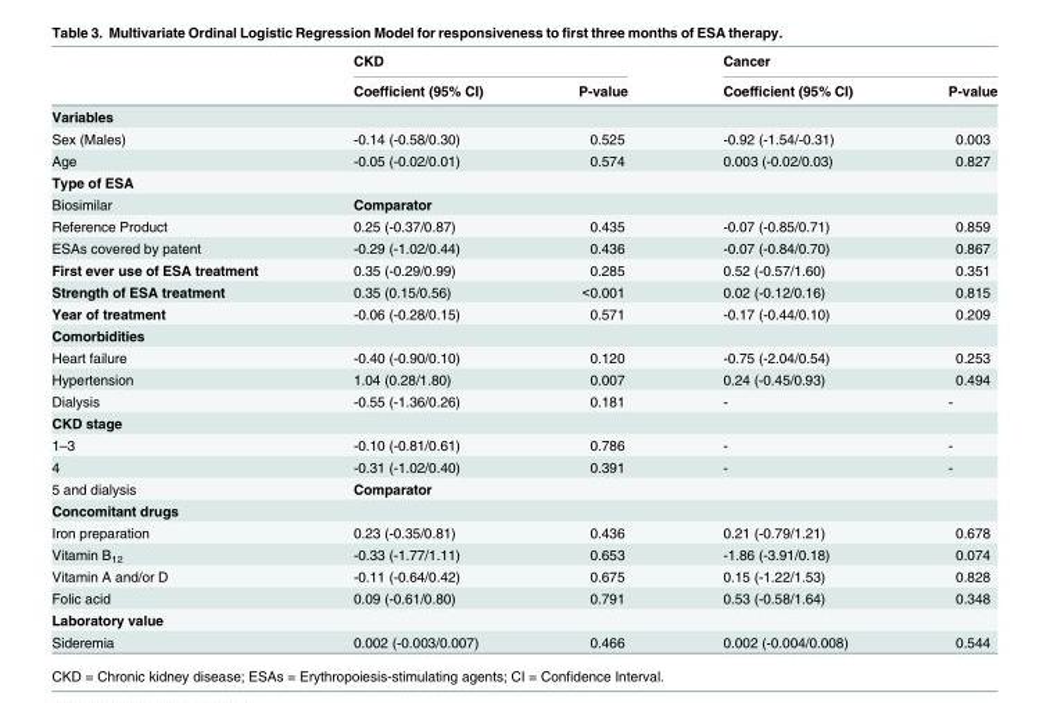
<table><thead><tr><td rowspan="2"></td><td colspan="2">CKD</td><td colspan="2">Cancer</td></tr><tr><td>Coefficient (95% CI)</td><td>P-value</td><td>Coefficient (95% CI)</td><td>P-value</td></tr></thead><tbody><tr><td colspan="5">Variables</td></tr><tr><td>Sex (Males)</td><td>-0.14 (-0.58/0.30)</td><td>0.525</td><td>-0.92 (-1.54/-0.31)</td><td>0.003</td></tr><tr><td>Age</td><td>-0.05 (-0.02/0.01)</td><td>0.574</td><td>0.003 (-0.02/0.03)</td><td>0.827</td></tr><tr><td colspan="5">Type of ESA</td></tr><tr><td>Biosimilar</td><td colspan="4">Comparator</td></tr><tr><td>Reference Product</td><td>0.25 (-0.37/0.87)</td><td>0.435</td><td>-0.07 (-0.85/0.71)</td><td>0.859</td></tr><tr><td>ESAs covered by patent</td><td>-0.29 (-1.02/0.44)</td><td>0.436</td><td>-0.07 (-0.84/0.70)</td><td>0.867</td></tr><tr><td>First ever use of ESA treatment</td><td>0.35 (-0.29/0.99)</td><td>0.285</td><td>0.52 (-0.57/1.60)</td><td>0.351</td></tr><tr><td>Strength of ESA treatment</td><td>0.35 (0.15/0.56)</td><td>&lt;0.001</td><td>0.02 (-0.12/0.16)</td><td>0.815</td></tr><tr><td>Year of treatment</td><td>-0.06 (-0.28/0.15)</td><td>0.571</td><td>-0.17 (-0.44/0.10)</td><td>0.209</td></tr><tr><td colspan="5">Comorbidities</td></tr><tr><td>Heart failure</td><td>-0.40 (-0.90/0.10)</td><td>0.120</td><td>-0.75 (-2.04/0.54)</td><td>0.253</td></tr><tr><td>Hypertension</td><td>1.04 (0.28/1.80)</td><td>0.007</td><td>0.24 (-0.45/0.93)</td><td>0.494</td></tr><tr><td>Dialysis</td><td>-0.55 (-1.36/0.26)</td><td>0.181</td><td>-</td><td>-</td></tr><tr><td colspan="5">CKD stage</td></tr><tr><td>1–3</td><td>-0.10 (-0.81/0.61)</td><td>0.786</td><td>-</td><td>-</td></tr><tr><td>4</td><td>-0.31 (-1.02/0.40)</td><td>0.391</td><td>-</td><td>-</td></tr><tr><td>5 and dialysis</td><td colspan="4">Comparator</td></tr><tr><td colspan="5">Concomitant drugs</td></tr><tr><td>Iron preparation</td><td>0.23 (-0.35/0.81)</td><td>0.436</td><td>0.21 (-0.79/1.21)</td><td>0.678</td></tr><tr><td>Vitamin B<sub>12</sub></td><td>-0.33 (-1.77/1.11)</td><td>0.653</td><td>-1.86 (-3.91/0.18)</td><td>0.074</td></tr><tr><td>Vitamin A and/or D</td><td>-0.11 (-0.64/0.42)</td><td>0.675</td><td>0.15 (-1.22/1.53)</td><td>0.828</td></tr><tr><td>Folic acid</td><td>0.09 (-0.61/0.80)</td><td>0.791</td><td>0.53 (-0.58/1.64)</td><td>0.348</td></tr><tr><td colspan="5">Laboratory value</td></tr><tr><td>Sideremia</td><td>0.002 (-0.003/0.007)</td><td>0.466</td><td>0.002 (-0.004/0.008)</td><td>0.544</td></tr></tbody></table>